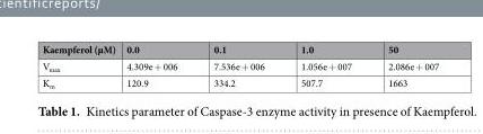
<table><thead><tr><td>Kaempferol (µM)</td><td>0.0</td><td>0.1</td><td>1.0</td><td>50</td></tr></thead><tbody><tr><td>V<sub>max</sub></td><td>4.309e + 006</td><td>7.536e + 006</td><td>1.056e + 007</td><td>2.086e + 007</td></tr><tr><td>K<sub>m</sub></td><td>120.9</td><td>334.2</td><td>507.7</td><td>1663</td></tr></tbody></table>